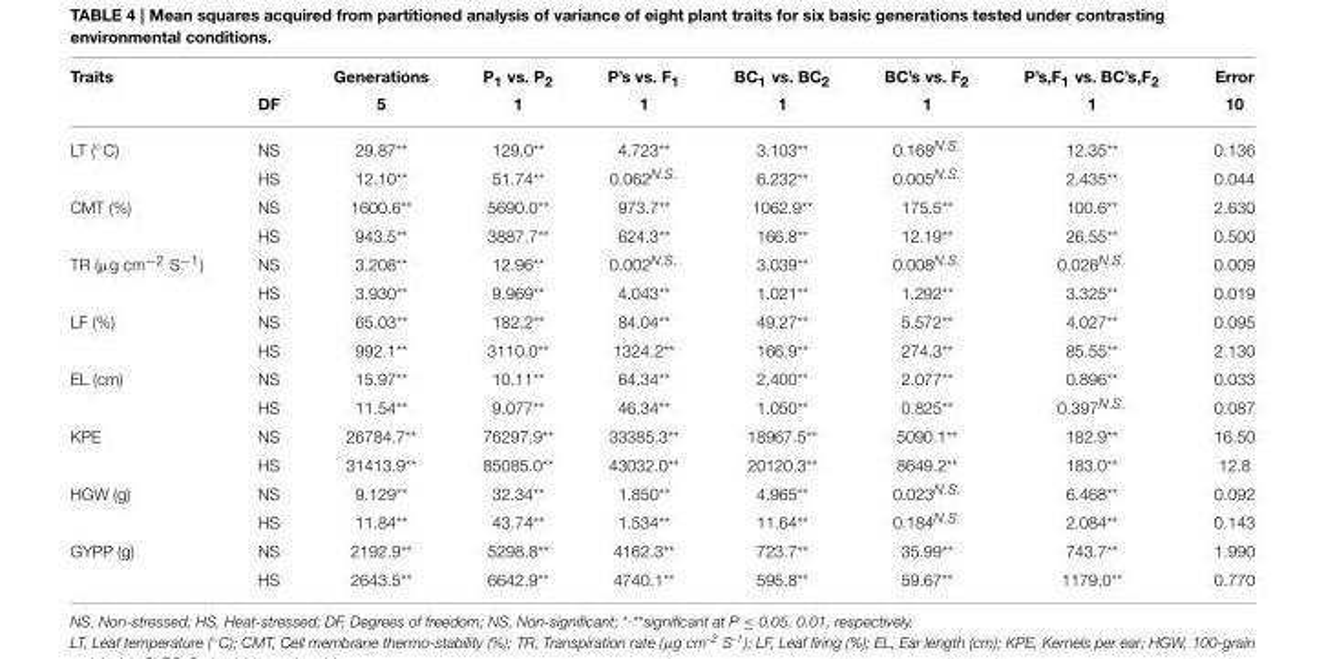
<table><thead><tr><td rowspan="2">Traits</td><td rowspan="2">DF</td><td rowspan="2">Generations 5</td><td rowspan="2">P<sub>1</sub> vs. P<sub>2</sub> 1</td><td rowspan="2">P’s vs. F<sub>1</sub> 1</td><td rowspan="2">BC<sub>1</sub> vs. BC<sub>2</sub> 1</td><td rowspan="2">BC’s vs. F<sub>2</sub> 1</td><td rowspan="2">P’s,F<sub>1</sub> vs. BC’s,F<sub>2</sub> 1</td><td rowspan="2">Error 10</td></tr><tr></tr></thead><tbody><tr><td rowspan="2">LT (◦C)</td><td>NS</td><td>29.87**</td><td>129.0**</td><td>4.723**</td><td>3.103**</td><td>0.168<sup>N.S.</sup></td><td>12.35**</td><td>0.136</td></tr><tr><td>HS</td><td>12.10**</td><td>51.74**</td><td>0.062<sup>N.S.</sup></td><td>6.232**</td><td>0.005<sup>N.S.</sup></td><td>2.435**</td><td>0.044</td></tr><tr><td rowspan="2">CMT (%)</td><td>NS</td><td>1600.6**</td><td>5690.0**</td><td>973.7**</td><td>1062.9**</td><td>175.5**</td><td>100.6**</td><td>2.630</td></tr><tr><td>HS</td><td>943.5**</td><td>3887.7**</td><td>624.3**</td><td>166.8**</td><td>12.19**</td><td>26.55**</td><td>0.500</td></tr><tr><td rowspan="2">TR (µg cm<sup>−2</sup> S<sup>−1</sup>)</td><td>NS</td><td>3.208**</td><td>12.96**</td><td>0.002<sup>N.S.</sup></td><td>3.039**</td><td>0.008<sup>N.S.</sup></td><td>0.026<sup>N.S.</sup></td><td>0.009</td></tr><tr><td>HS</td><td>3.930**</td><td>9.969**</td><td>4.043**</td><td>1.021**</td><td>1.292**</td><td>3.325**</td><td>0.019</td></tr><tr><td rowspan="2">LF (%)</td><td>NS</td><td>65.03**</td><td>182.2**</td><td>84.04**</td><td>49.27**</td><td>5.572**</td><td>4.027**</td><td>0.095</td></tr><tr><td>HS</td><td>992.1**</td><td>3110.0**</td><td>1324.2**</td><td>166.9**</td><td>274.3**</td><td>85.55**</td><td>2.130</td></tr><tr><td rowspan="2">EL (cm)</td><td>NS</td><td>15.97**</td><td>10.11**</td><td>64.34**</td><td>2.400**</td><td>2.077**</td><td>0.896**</td><td>0.033</td></tr><tr><td>HS</td><td>11.54**</td><td>9.077**</td><td>46.34**</td><td>1.050**</td><td>0.825**</td><td>0.397<sup>N.S.</sup></td><td>0.087</td></tr><tr><td rowspan="2">KPE</td><td>NS</td><td>26784.7**</td><td>76297.9**</td><td>33385.3**</td><td>18967.5**</td><td>5090.1**</td><td>182.9**</td><td>16.50</td></tr><tr><td>HS</td><td>31413.9**</td><td>85085.0**</td><td>43032.0**</td><td>20120.3**</td><td>8649.2**</td><td>183.0**</td><td>12.8</td></tr><tr><td rowspan="2">HGW (g)</td><td>NS</td><td>9.129**</td><td>32.34**</td><td>1.850**</td><td>4.965**</td><td>0.023<sup>N.S.</sup></td><td>6.468**</td><td>0.092</td></tr><tr><td>HS</td><td>11.84**</td><td>43.74**</td><td>1.534**</td><td>11.64**</td><td>0.184<sup>N.S.</sup></td><td>2.084**</td><td>0.143</td></tr><tr><td rowspan="2">GYPP (g)</td><td>NS</td><td>2192.9**</td><td>5298.8**</td><td>4162.3**</td><td>723.7**</td><td>35.99**</td><td>743.7**</td><td>1.990</td></tr><tr><td>HS</td><td>2643.5**</td><td>6642.9**</td><td>4740.1**</td><td>595.8**</td><td>59.67**</td><td>1179.0**</td><td>0.770</td></tr></tbody></table>